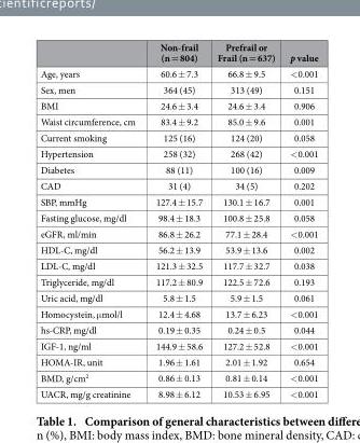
<table><thead><tr><td></td><td>Non-frail (n = 804)</td><td>Prefrail or Frail (n = 637)</td><td>p value</td></tr></thead><tbody><tr><td>Age, years</td><td>60.6 ± 7.3</td><td>66.8 ± 9.5</td><td>&lt; 0.001</td></tr><tr><td>Sex, men</td><td>364 (45)</td><td>313 (49)</td><td>0.151</td></tr><tr><td>BMI</td><td>24.6 ± 3.4</td><td>24.6 ± 3.4</td><td>0.906</td></tr><tr><td>Waist circumference, cm</td><td>83.4 ± 9.2</td><td>85.0 ± 9.6</td><td>0.001</td></tr><tr><td>Current smoking</td><td>125 (16)</td><td>124 (20)</td><td>0.058</td></tr><tr><td>Hypertension</td><td>258 (32)</td><td>268 (42)</td><td>&lt; 0.001</td></tr><tr><td>Diabetes</td><td>88 (11)</td><td>100 (16)</td><td>0.009</td></tr><tr><td>CAD</td><td>31 (4)</td><td>34 (5)</td><td>0.202</td></tr><tr><td>SBP, mmHg</td><td>127.4 ± 15.7</td><td>130.1 ± 16.7</td><td>0.001</td></tr><tr><td>Fasting glucose, mg/dl</td><td>98.4 ± 18.3</td><td>100.8 ± 25.8</td><td>0.058</td></tr><tr><td>eGFR, ml/min</td><td>86.8 ± 26.2</td><td>77.1 ± 28.4</td><td>&lt; 0.001</td></tr><tr><td>HDL-C, mg/dl</td><td>56.2 ± 13.9</td><td>53.9 ± 13.6</td><td>0.002</td></tr><tr><td>LDL-C, mg/dl</td><td>121.3 ± 32.5</td><td>117.7 ± 32.7</td><td>0.038</td></tr><tr><td>Triglyceride, mg/dl</td><td>117.2 ± 80.9</td><td>122.5 ± 72.6</td><td>0.193</td></tr><tr><td>Uric acid, mg/dl</td><td>5.8 ± 1.5</td><td>5.9 ± 1.5</td><td>0.061</td></tr><tr><td>Homocystein, μ mol/l</td><td>12.4 ± 4.68</td><td>13.7 ± 6.23</td><td>&lt; 0.001</td></tr><tr><td>hs-CRP, mg/dl</td><td>0.19 ± 0.35</td><td>0.24 ± 0.5</td><td>0.044</td></tr><tr><td>IGF-1, ng/ml</td><td>144.9 ± 58.6</td><td>127.2 ± 52.8</td><td>&lt; 0.001</td></tr><tr><td>HOMA-IR, unit</td><td>1.96 ± 1.61</td><td>2.01 ± 1.92</td><td>0.654</td></tr><tr><td>BMD, g/cm<sup>2</sup></td><td>0.86 ± 0.13</td><td>0.81 ± 0.14</td><td>&lt; 0.001</td></tr><tr><td>UACR, mg/g creatinine</td><td>8.98 ± 6.12</td><td>10.53 ± 6.95</td><td>&lt; 0.001</td></tr></tbody></table>